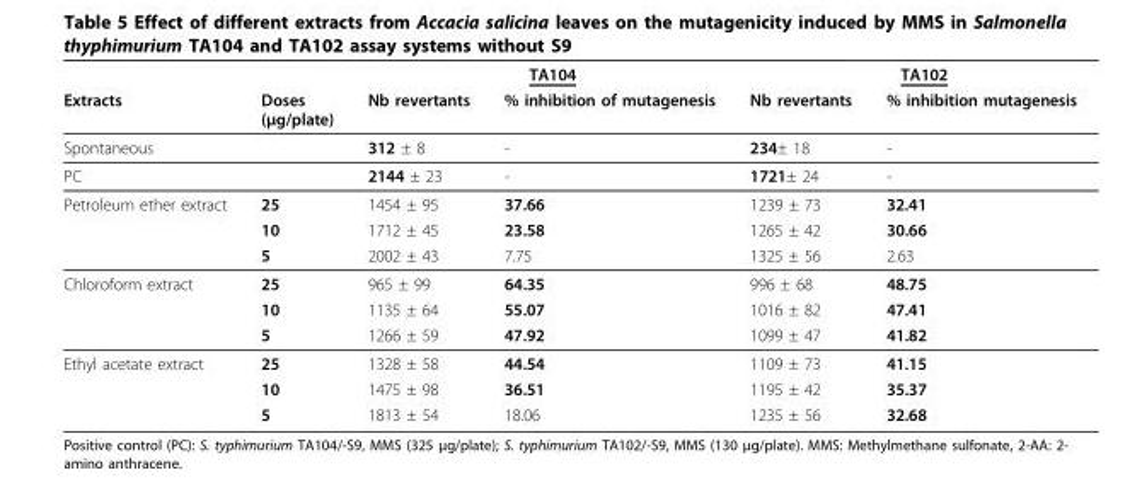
<table><thead><tr><td rowspan="2">Extracts</td><td rowspan="2">Doses (μg/plate)</td><td colspan="2">TA104</td><td colspan="2">TA102</td></tr><tr><td>Nb revertants</td><td>% inhibition of mutagenesis</td><td>Nb revertants</td><td>% inhibition mutagenesis</td></tr></thead><tbody><tr><td>Spontaneous</td><td></td><td>312 ± 8</td><td>-</td><td>234± 18</td><td>-</td></tr><tr><td>PC</td><td></td><td>2144 ± 23</td><td>-</td><td>1721± 24</td><td>-</td></tr><tr><td rowspan="3">Petroleum ether extract</td><td>25</td><td>1454 ± 95</td><td>37.66</td><td>1239 ± 73</td><td>32.41</td></tr><tr><td>10</td><td>1712 ± 45</td><td>23.58</td><td>1265 ± 42</td><td>30.66</td></tr><tr><td>5</td><td>2002 ± 43</td><td>7.75</td><td>1325 ± 56</td><td>2.63</td></tr><tr><td rowspan="3">Chloroform extract</td><td>25</td><td>965 ± 99</td><td>64.35</td><td>996 ± 68</td><td>48.75</td></tr><tr><td>10</td><td>1135 ± 64</td><td>55.07</td><td>1016 ± 82</td><td>47.41</td></tr><tr><td>5</td><td>1266 ± 59</td><td>47.92</td><td>1099 ± 47</td><td>41.82</td></tr><tr><td rowspan="3">Ethyl acetate extract</td><td>25</td><td>1328 ± 58</td><td>44.54</td><td>1109 ± 73</td><td>41.15</td></tr><tr><td>10</td><td>1475 ± 98</td><td>36.51</td><td>1195 ± 42</td><td>35.37</td></tr><tr><td>5</td><td>1813 ± 54</td><td>18.06</td><td>1235 ± 56</td><td>32.68</td></tr></tbody></table>